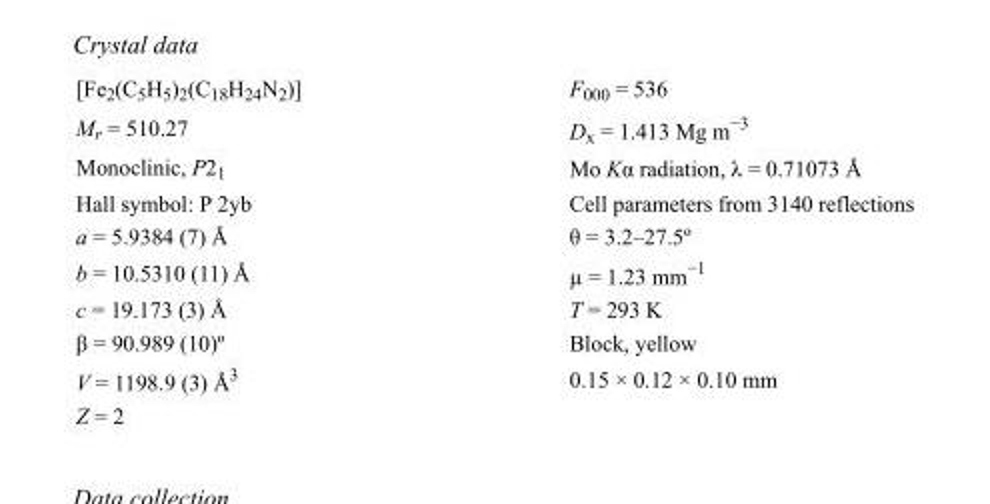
<table><tbody><tr><td>[Fe<sub>2</sub>(C<sub>5</sub>H<sub>5</sub>)<sub>2</sub>(C<sub>18</sub>H<sub>24</sub>N<sub>2</sub>)]</td><td>F000 = 536</td></tr><tr><td>M<sub>r</sub> = 510.27</td><td>D<sub>x</sub> = 1.413 Mg m<sup>−3</sup></td></tr><tr><td>Monoclinic, P2<sub>1</sub></td><td>Mo Kα radiation, λ = 0.71073 Å</td></tr><tr><td>Hall symbol: P 2yb</td><td>Cell parameters from 3140 reflections</td></tr><tr><td>a = 5.9384 (7) Å</td><td>θ = 3.2–27.5º</td></tr><tr><td>b = 10.5310 (11) Å</td><td>µ = 1.23 mm<sup>−1</sup></td></tr><tr><td>c = 19.173 (3) Å</td><td>T = 293 K</td></tr><tr><td>β = 90.989 (10)º</td><td>Block, yellow</td></tr><tr><td>V = 1198.9 (3) Å<sup>3</sup></td><td>0.15 × 0.12 × 0.10 mm</td></tr><tr><td>Z = 2</td><td></td></tr></tbody></table>